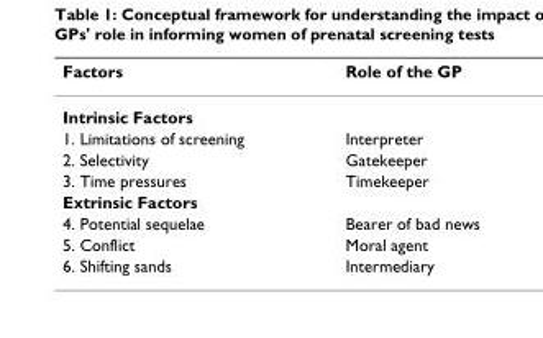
<table><thead><tr><td>Factors</td><td>Role of the GP</td></tr></thead><tbody><tr><td colspan="2">Intrinsic Factors</td></tr><tr><td>1. Limitations of screening</td><td>Interpreter</td></tr><tr><td>2. Selectivity</td><td>Gatekeeper</td></tr><tr><td>3. Time pressures</td><td>Timekeeper</td></tr><tr><td colspan="2">Extrinsic Factors</td></tr><tr><td>4. Potential sequelae</td><td>Bearer of bad news</td></tr><tr><td>5. Conflict</td><td>Moral agent</td></tr><tr><td>6. Shifting sands</td><td>Intermediary</td></tr></tbody></table>